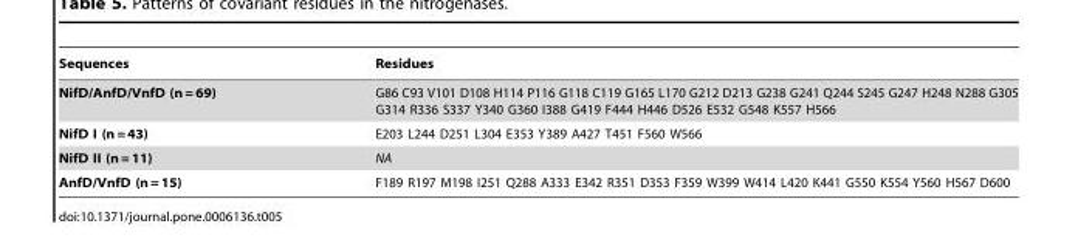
<table><thead><tr><td>Sequences</td><td>Residues</td></tr></thead><tbody><tr><td>NifD/AnfD/VnfD (n = 69)</td><td>G86 C93 V101 D108 H114 P116 G118 C119 G165 L170 G212 D213 G238 G241 Q244 S245 G247 H248 N288 G305 G314 R336 S337 Y340 G360 I388 G419 F444 H446 D526 E532 G548 K557 H566</td></tr><tr><td>NifD I (n = 43)</td><td>E203 L244 D251 L304 E353 Y389 A427 T451 F560 W566</td></tr><tr><td>NifD II (n = 11)</td><td>NA</td></tr><tr><td>AnfD/VnfD (n = 15)</td><td>F189 R197 M198 I251 Q288 A333 E342 R351 D353 F359 W399 W414 L420 K441 G550 K554 Y560 H567 D600</td></tr></tbody></table>